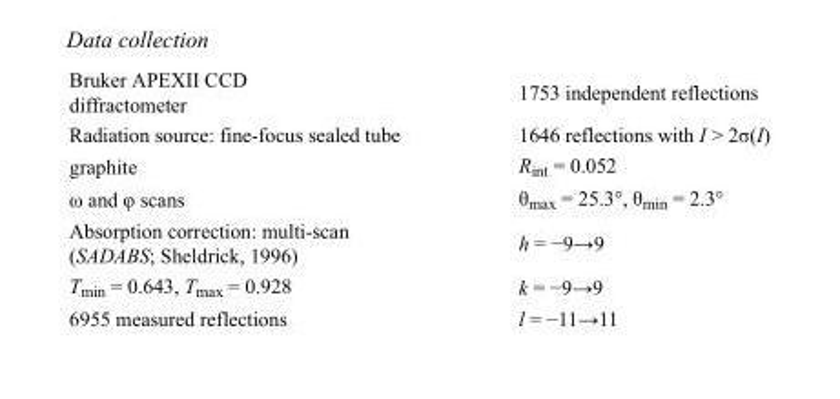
<table><tbody><tr><td>Bruker APEXII CCD diffractometer</td><td>1753 independent reflections</td></tr><tr><td>Radiation source: fine-focus sealed tube</td><td>1646 reflections with I &gt; 2σ(I)</td></tr><tr><td>graphite</td><td>R<sub>int</sub> = 0.052</td></tr><tr><td>ω and φ scans</td><td>θ<sub>max</sub> = 25.3°, θ<sub>min</sub> = 2.3°</td></tr><tr><td>Absorption correction: multi-scan (SADABS; Sheldrick, 1996)</td><td>h = −9→9</td></tr><tr><td>T<sub>min</sub> = 0.643, T<sub>max</sub> = 0.928</td><td>k = −9→9</td></tr><tr><td>6955 measured reflections</td><td>l = −11→11</td></tr></tbody></table>